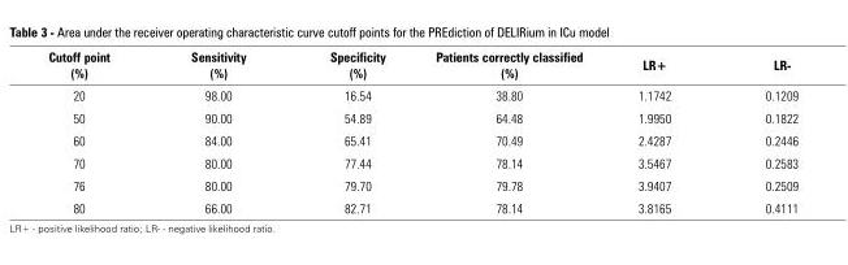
<table><thead><tr><td>Cutoff point (%)</td><td>Sensitivity (%)</td><td>Specificity (%)</td><td>Patients correctly classified (%)</td><td>LR+</td><td>LR-</td></tr></thead><tbody><tr><td>20</td><td>98.00</td><td>16.54</td><td>38.80</td><td>1.1742</td><td>0.1209</td></tr><tr><td>50</td><td>90.00</td><td>54.89</td><td>64.48</td><td>1.9950</td><td>0.1822</td></tr><tr><td>60</td><td>84.00</td><td>65.41</td><td>70.49</td><td>2.4287</td><td>0.2446</td></tr><tr><td>70</td><td>80.00</td><td>77.44</td><td>78.14</td><td>3.5467</td><td>0.2583</td></tr><tr><td>76</td><td>80.00</td><td>79.70</td><td>79.78</td><td>3.9407</td><td>0.2509</td></tr><tr><td>80</td><td>66.00</td><td>82.71</td><td>78.14</td><td>3.8165</td><td>0.4111</td></tr></tbody></table>